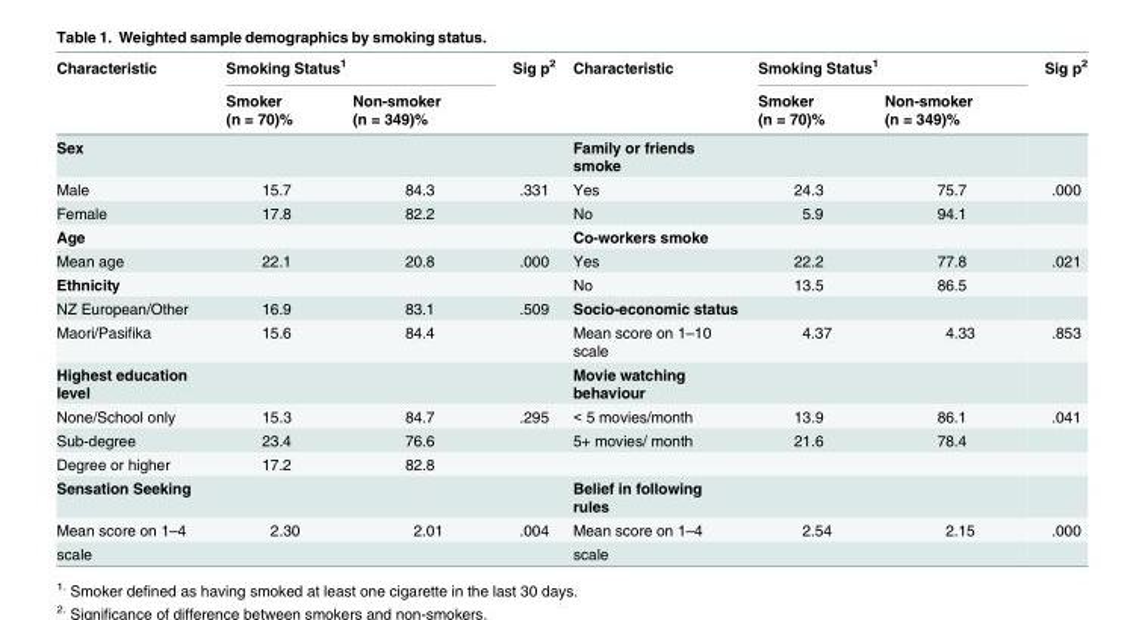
<table><thead><tr><td rowspan="2">Characteristic</td><td colspan="2">Smoking Status<sup>1</sup></td><td rowspan="2">Sig p<sup>2</sup></td><td rowspan="2">Characteristic</td><td colspan="2">Smoking Status<sup>1</sup></td><td rowspan="2">Sig p<sup>2</sup></td></tr><tr><td>Smoker (n = 70)%</td><td>Non-smoker (n = 349)%</td><td>Smoker (n = 70)%</td><td>Non-smoker (n = 349)%</td></tr></thead><tbody><tr><td>Sex</td><td></td><td></td><td></td><td>Family or friends smoke</td><td></td><td></td><td></td></tr><tr><td>Male</td><td>15.7</td><td>84.3</td><td>.331</td><td>Yes</td><td>24.3</td><td>75.7</td><td>.000</td></tr><tr><td>Female</td><td>17.8</td><td>82.2</td><td></td><td>No</td><td>5.9</td><td>94.1</td><td></td></tr><tr><td>Age</td><td></td><td></td><td></td><td>Co-workers smoke</td><td></td><td></td><td></td></tr><tr><td>Mean age</td><td>22.1</td><td>20.8</td><td>.000</td><td>Yes</td><td>22.2</td><td>77.8</td><td>.021</td></tr><tr><td>Ethnicity</td><td></td><td></td><td></td><td>No</td><td>13.5</td><td>86.5</td><td></td></tr><tr><td>NZ European/Other</td><td>16.9</td><td>83.1</td><td>.509</td><td>Socio-economic status</td><td></td><td></td><td></td></tr><tr><td>Maori/Pasifika</td><td>15.6</td><td>84.4</td><td></td><td>Mean score on 1–10 scale</td><td>4.37</td><td>4.33</td><td>.853</td></tr><tr><td>Highest education level</td><td></td><td></td><td></td><td>Movie watching behaviour</td><td></td><td></td><td></td></tr><tr><td>None/School only</td><td>15.3</td><td>84.7</td><td>.295</td><td>&lt; 5 movies/month</td><td>13.9</td><td>86.1</td><td>.041</td></tr><tr><td>Sub-degree</td><td>23.4</td><td>76.6</td><td></td><td>5+ movies/ month</td><td>21.6</td><td>78.4</td><td></td></tr><tr><td>Degree or higher</td><td>17.2</td><td>82.8</td><td></td><td></td><td></td><td></td><td></td></tr><tr><td>Sensation Seeking</td><td></td><td></td><td></td><td>Belief in following rules</td><td></td><td></td><td></td></tr><tr><td>Mean score on 1–4</td><td>2.30</td><td>2.01</td><td>.004</td><td>Mean score on 1–4</td><td>2.54</td><td>2.15</td><td>.000</td></tr><tr><td>scale</td><td></td><td></td><td></td><td>scale</td><td></td><td></td><td></td></tr></tbody></table>